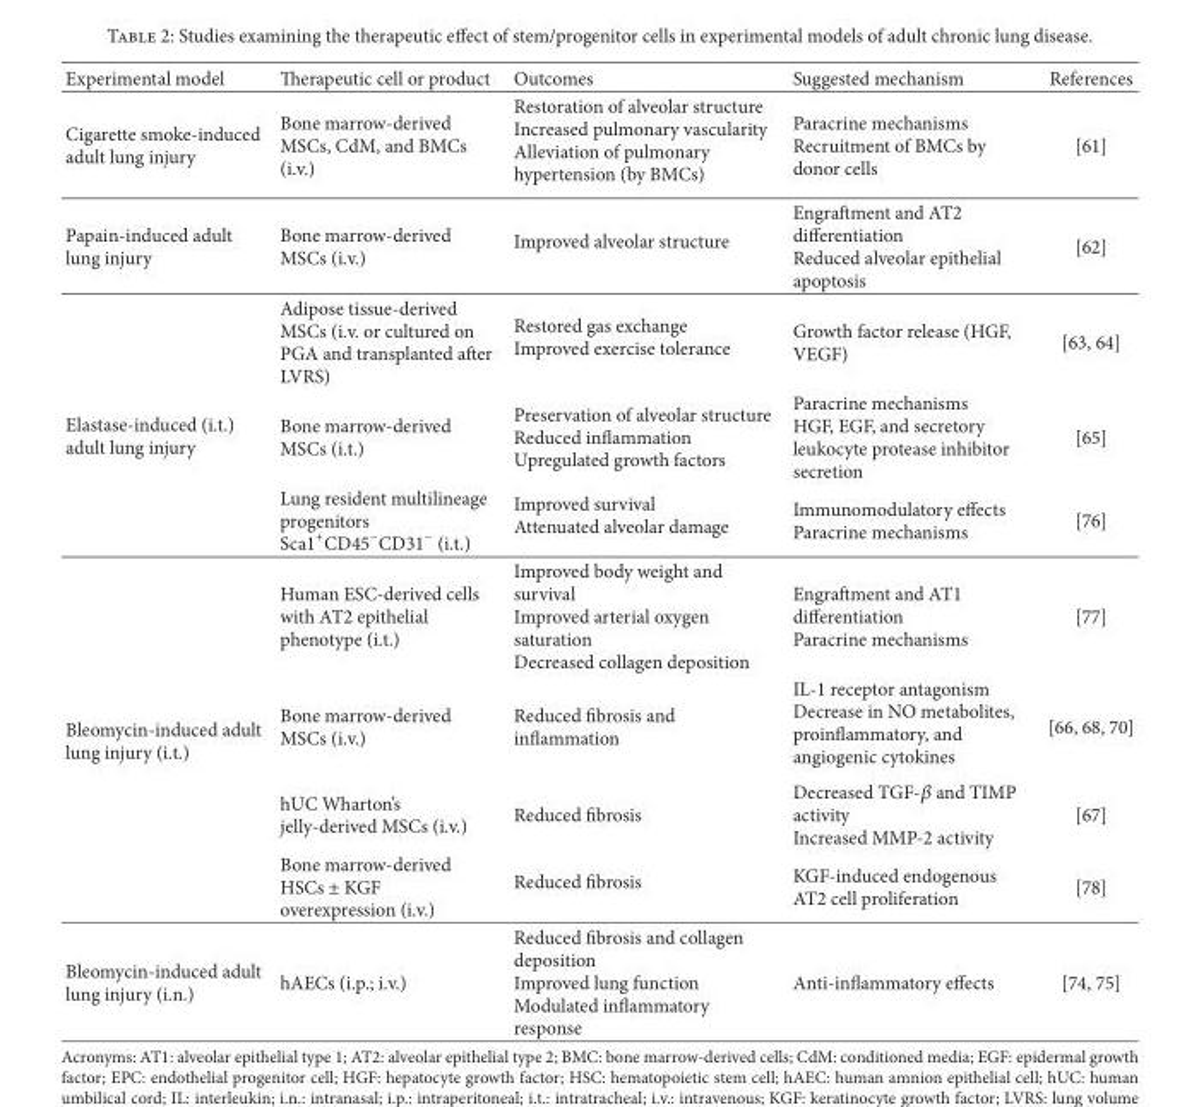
<table><thead><tr><td>Experimental model</td><td>erapeutic cell or product</td><td>Outcomes</td><td>Suggested mechanism</td><td>References</td></tr></thead><tbody><tr><td>Cigarette smoke-induced adult lung injury</td><td>Bone marrow-derived MSCs, CdM, and BMCs (i.v.)</td><td>Restoration of alveolar structure Increased pulmonary vascularity Alleviation of pulmonary hypertension (by BMCs)</td><td>Paracrine mechanisms Recruitment of BMCs by donor cells</td><td>[61]</td></tr><tr><td>Papain-induced adult lung injury</td><td>Bone marrow-derived MSCs (i.v.)</td><td>Improved alveolar structure</td><td>Engrament and AT2 differentiation Reduced alveolar epithelial apoptosis</td><td>[62]</td></tr><tr><td rowspan="3">Elastase-induced (i.t.) adult lung injury</td><td>Adipose tissue-derived MSCs (i.v. or cultured on PGA and transplanted aer LVRS)</td><td>Restored gas exchange Improved exercise tolerance</td><td>Growth factor release (HGF, VEGF)</td><td>[63, 64]</td></tr><tr><td>Bone marrow-derived MSCs (i.t.)</td><td>Preservation of alveolar structure Reduced in�ammation Upregulated growth factors</td><td>Paracrine mechanisms HGF, EGF, and secretory leukocyte protease inhibitor secretion</td><td>[65]</td></tr><tr><td>Lung resident multilineage progenitors Sca1+CD45−CD31− (i.t.)</td><td>Improved survival Attenuated alveolar damage</td><td>Immunomodulatory effects Paracrine mechanisms</td><td>[76]</td></tr><tr><td rowspan="4">Bleomycin-induced adult lung injury (i.t.)</td><td>Human ESC-derived cells with AT2 epithelial phenotype (i.t.)</td><td>Improved body weight and survival Improved arterial oxygen saturation Decreased collagen deposition</td><td>Engrament and AT1 differentiation Paracrine mechanisms</td><td>[77]</td></tr><tr><td>Bone marrow-derived MSCs (i.v.)</td><td>Reduced �brosis and in�ammation</td><td>IL-1 receptor antagonism Decrease in NO metabolites, proin�ammatory, and angiogenic cytokines</td><td>[66, 68, 70]</td></tr><tr><td>hUC Wharton’s jelly-derived MSCs (i.v.)</td><td>Reduced �brosis</td><td>Decreased TGF-𝛽𝛽 and TIMP activity Increased MMP-2 activity</td><td>[67]</td></tr><tr><td>Bone marrow-derived HSCs ± KGF overexpression (i.v.)</td><td>Reduced �brosis</td><td>KGF-induced endogenous AT2 cell proliferation</td><td>[78]</td></tr><tr><td>Bleomycin-induced adult lung injury (i.n.)</td><td>hAECs (i.p.; i.v.)</td><td>Reduced �brosis and collagen deposition Improved lung function Modulated in�ammatory response</td><td>Anti-in�ammatory effects</td><td>[74, 75]</td></tr></tbody></table>